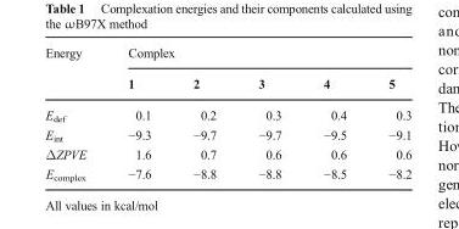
<table><thead><tr><td rowspan="2">Energy</td><td colspan="5">Complex</td></tr><tr><td>1</td><td>2</td><td>3</td><td>4</td><td>5</td></tr></thead><tbody><tr><td>E<sub>def</sub></td><td>0.1</td><td>0.2</td><td>0.3</td><td>0.4</td><td>0.3</td></tr><tr><td>E<sub>int</sub></td><td>−9.3</td><td>−9.7</td><td>−9.7</td><td>−9.5</td><td>−9.1</td></tr><tr><td>ΔZPVE</td><td>1.6</td><td>0.7</td><td>0.6</td><td>0.6</td><td>0.6</td></tr><tr><td>E<sub>complex</sub></td><td>−7.6</td><td>−8.8</td><td>−8.8</td><td>−8.5</td><td>−8.2</td></tr></tbody></table>